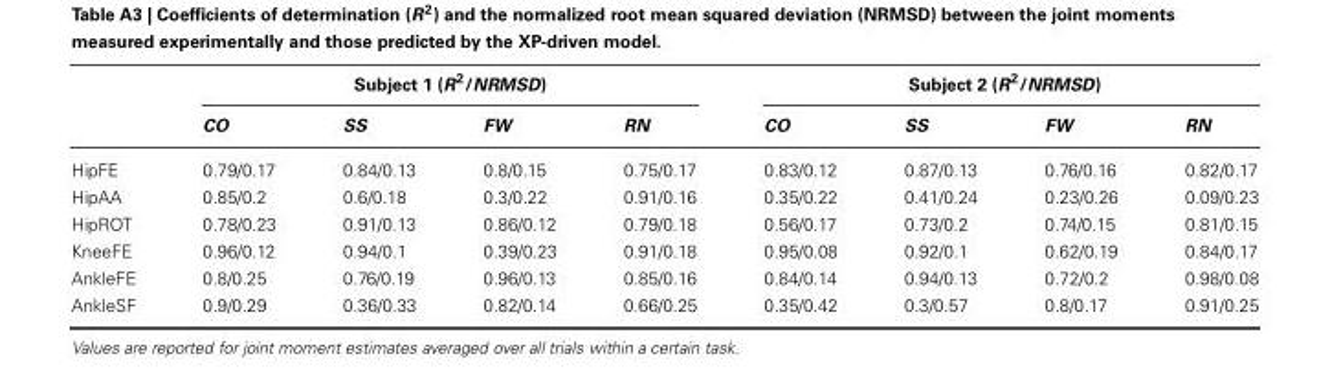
<table><thead><tr><td rowspan="2"></td><td colspan="4">Subject 1 (R<sup>2</sup>/NRMSD)</td><td colspan="4">Subject 2 (R<sup>2</sup>/NRMSD)</td></tr><tr><td>CO</td><td>SS</td><td>FW</td><td>RN</td><td>CO</td><td>SS</td><td>FW</td><td>RN</td></tr></thead><tbody><tr><td>HipFE</td><td>0.79/0.17</td><td>0.84/0.13</td><td>0.8/0.15</td><td>0.75/0.17</td><td>0.83/0.12</td><td>0.87/0.13</td><td>0.76/0.16</td><td>0.82/0.17</td></tr><tr><td>HipAA</td><td>0.85/0.2</td><td>0.6/0.18</td><td>0.3/0.22</td><td>0.91/0.16</td><td>0.35/0.22</td><td>0.41/0.24</td><td>0.23/0.26</td><td>0.09/0.23</td></tr><tr><td>HipROT</td><td>0.78/0.23</td><td>0.91/0.13</td><td>0.86/0.12</td><td>0.79/0.18</td><td>0.56/0.17</td><td>0.73/0.2</td><td>0.74/0.15</td><td>0.81/0.15</td></tr><tr><td>KneeFE</td><td>0.96/0.12</td><td>0.94/0.1</td><td>0.39/0.23</td><td>0.91/0.18</td><td>0.95/0.08</td><td>0.92/0.1</td><td>0.62/0.19</td><td>0.84/0.17</td></tr><tr><td>AnkleFE</td><td>0.8/0.25</td><td>0.76/0.19</td><td>0.96/0.13</td><td>0.85/0.16</td><td>0.84/0.14</td><td>0.94/0.13</td><td>0.72/0.2</td><td>0.98/0.08</td></tr><tr><td>AnkleSF</td><td>0.9/0.29</td><td>0.36/0.33</td><td>0.82/0.14</td><td>0.66/0.25</td><td>0.35/0.42</td><td>0.3/0.57</td><td>0.8/0.17</td><td>0.91/0.25</td></tr></tbody></table>